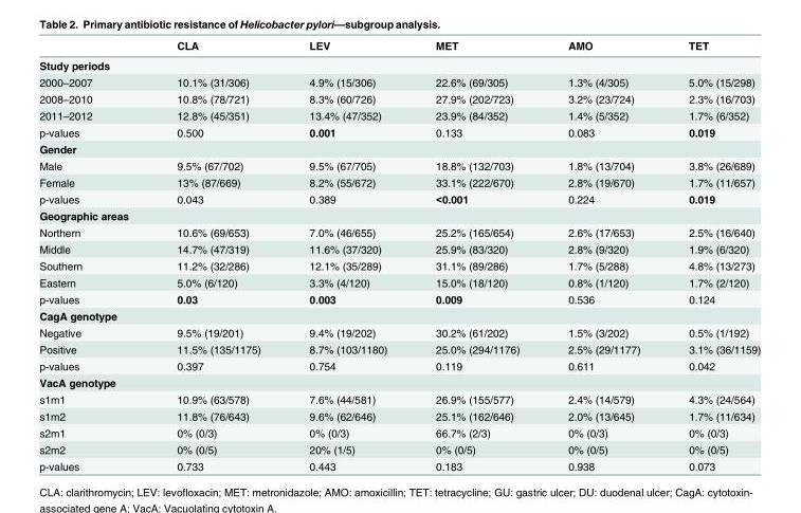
<table><thead><tr><td></td><td>CLA</td><td>LEV</td><td>MET</td><td>AMO</td><td>TET</td></tr></thead><tbody><tr><td colspan="6">Study periods</td></tr><tr><td>2000–2007</td><td>10.1% (31/306)</td><td>4.9% (15/306)</td><td>22.6% (69/305)</td><td>1.3% (4/305)</td><td>5.0% (15/298)</td></tr><tr><td>2008–2010</td><td>10.8% (78/721)</td><td>8.3% (60/726)</td><td>27.9% (202/723)</td><td>3.2% (23/724)</td><td>2.3% (16/703)</td></tr><tr><td>2011–2012</td><td>12.8% (45/351)</td><td>13.4% (47/352)</td><td>23.9% (84/352)</td><td>1.4% (5/352)</td><td>1.7% (6/352)</td></tr><tr><td>p-values</td><td>0.500</td><td>0.001</td><td>0.133</td><td>0.083</td><td>0.019</td></tr><tr><td colspan="6">Gender</td></tr><tr><td>Male</td><td>9.5% (67/702)</td><td>9.5% (67/705)</td><td>18.8% (132/703)</td><td>1.8% (13/704)</td><td>3.8% (26/689)</td></tr><tr><td>Female</td><td>13% (87/669)</td><td>8.2% (55/672)</td><td>33.1% (222/670)</td><td>2.8% (19/670)</td><td>1.7% (11/657)</td></tr><tr><td>p-values</td><td>0.043</td><td>0.389</td><td>&lt;0.001</td><td>0.224</td><td>0.019</td></tr><tr><td colspan="6">Geographic areas</td></tr><tr><td>Northern</td><td>10.6% (69/653)</td><td>7.0% (46/655)</td><td>25.2% (165/654)</td><td>2.6% (17/653)</td><td>2.5% (16/640)</td></tr><tr><td>Middle</td><td>14.7% (47/319)</td><td>11.6% (37/320)</td><td>25.9% (83/320)</td><td>2.8% (9/320)</td><td>1.9% (6/320)</td></tr><tr><td>Southern</td><td>11.2% (32/286)</td><td>12.1% (35/289)</td><td>31.1% (89/286)</td><td>1.7% (5/288)</td><td>4.8% (13/273)</td></tr><tr><td>Eastern</td><td>5.0% (6/120)</td><td>3.3% (4/120)</td><td>15.0% (18/120)</td><td>0.8% (1/120)</td><td>1.7% (2/120)</td></tr><tr><td>p-values</td><td>0.03</td><td>0.003</td><td>0.009</td><td>0.536</td><td>0.124</td></tr><tr><td colspan="6">CagA genotype</td></tr><tr><td>Negative</td><td>9.5% (19/201)</td><td>9.4% (19/202)</td><td>30.2% (61/202)</td><td>1.5% (3/202)</td><td>0.5% (1/192)</td></tr><tr><td>Positive</td><td>11.5% (135/1175)</td><td>8.7% (103/1180)</td><td>25.0% (294/1176)</td><td>2.5% (29/1177)</td><td>3.1% (36/1159)</td></tr><tr><td>p-values</td><td>0.397</td><td>0.754</td><td>0.119</td><td>0.611</td><td>0.042</td></tr><tr><td colspan="6">VacA genotype</td></tr><tr><td>s1m1</td><td>10.9% (63/578)</td><td>7.6% (44/581)</td><td>26.9% (155/577)</td><td>2.4% (14/579)</td><td>4.3% (24/564)</td></tr><tr><td>s1m2</td><td>11.8% (76/643)</td><td>9.6% (62/646)</td><td>25.1% (162/646)</td><td>2.0% (13/645)</td><td>1.7% (11/634)</td></tr><tr><td>s2m1</td><td>0% (0/3)</td><td>0% (0/3)</td><td>66.7% (2/3)</td><td>0% (0/3)</td><td>0% (0/3)</td></tr><tr><td>s2m2</td><td>0% (0/5)</td><td>20% (1/5)</td><td>0% (0/5)</td><td>0% (0/5)</td><td>0% (0/5)</td></tr><tr><td>p-values</td><td>0.733</td><td>0.443</td><td>0.183</td><td>0.938</td><td>0.073</td></tr></tbody></table>